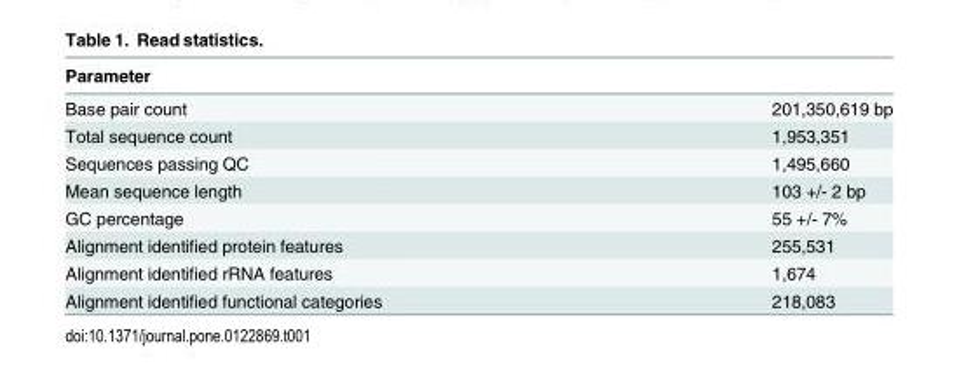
<table><thead><tr><td>Parameter</td><td></td></tr></thead><tbody><tr><td>Base pair count</td><td>201,350,619 bp</td></tr><tr><td>Total sequence count</td><td>1,953,351</td></tr><tr><td>Sequences passing QC</td><td>1,495,660</td></tr><tr><td>Mean sequence length</td><td>103 +/- 2 bp</td></tr><tr><td>GC percentage</td><td>55 +/- 7%</td></tr><tr><td>Alignment identified protein features</td><td>255,531</td></tr><tr><td>Alignment identified rRNA features</td><td>1,674</td></tr><tr><td>Alignment identified functional categories</td><td>218,083</td></tr></tbody></table>